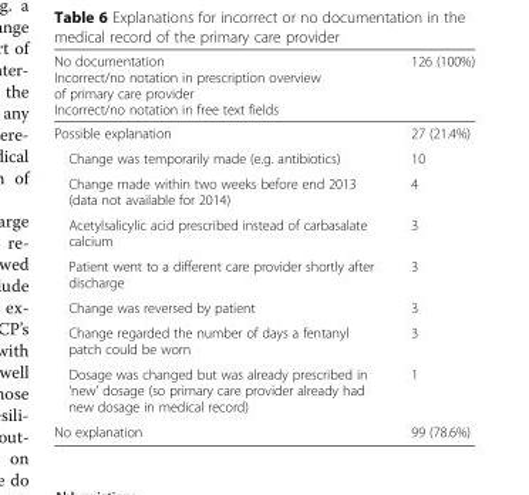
<table><thead><tr><td>No documentation Incorrect/no notation in prescription overview of primary care provider Incorrect/no notation in free text fields</td><td>126 (100%)</td></tr></thead><tbody><tr><td>Possible explanation</td><td>27 (21.4%)</td></tr><tr><td>Change was temporarily made (e.g. antibiotics)</td><td>10</td></tr><tr><td>Change made within two weeks before end 2013 (data not available for 2014)</td><td>4</td></tr><tr><td>Acetylsalicylic acid prescribed instead of carbasalate calcium</td><td>3</td></tr><tr><td>Patient went to a different care provider shortly after discharge</td><td>3</td></tr><tr><td>Change was reversed by patient</td><td>3</td></tr><tr><td>Change regarded the number of days a fentanyl patch could be worn</td><td>3</td></tr><tr><td>Dosage was changed but was already prescribed in ‘new’ dosage (so primary care provider already had new dosage in medical record)</td><td>1</td></tr><tr><td>No explanation</td><td>99 (78.6%)</td></tr></tbody></table>